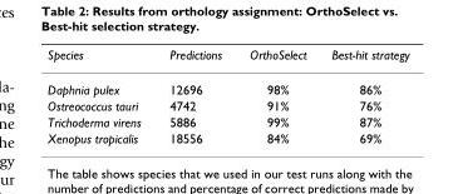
<table><thead><tr><td>Species</td><td>Predictions</td><td>OrthoSelect</td><td>Best-hit strategy</td></tr></thead><tbody><tr><td>Daphnia pulex</td><td>12696</td><td>98%</td><td>86%</td></tr><tr><td>Ostreococcus tauri</td><td>4742</td><td>91%</td><td>76%</td></tr><tr><td>Trichoderma virens</td><td>5886</td><td>99%</td><td>87%</td></tr><tr><td>Xenopus tropicalis</td><td>18556</td><td>84%</td><td>69%</td></tr></tbody></table>